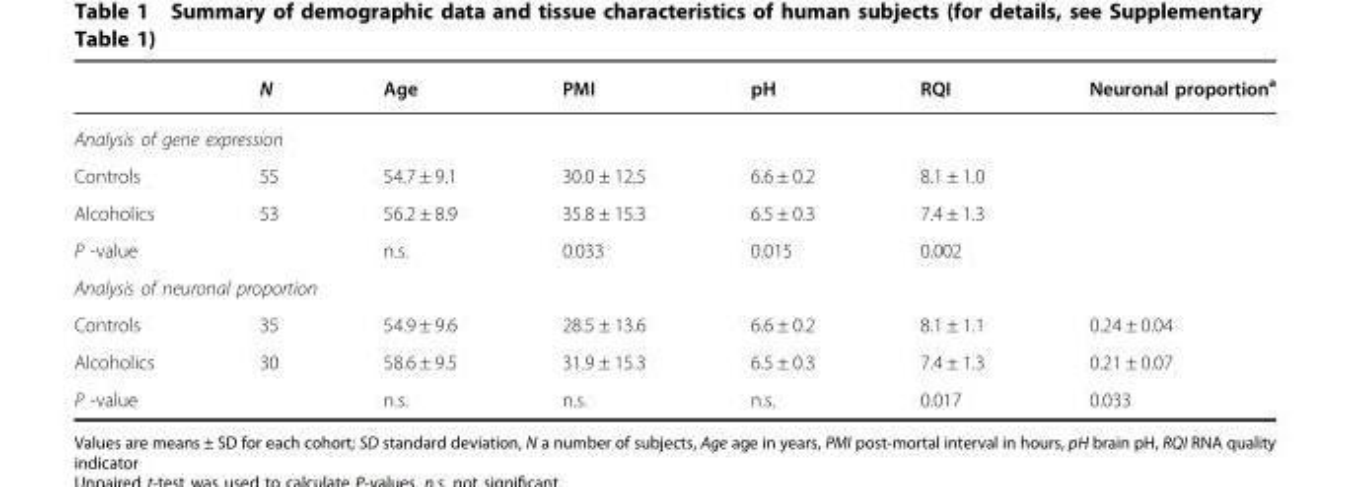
<table><thead><tr><td></td><td>N</td><td>Age</td><td>PMI</td><td>pH</td><td>RQI</td><td>Neuronal proportion<sup>a</sup></td></tr></thead><tbody><tr><td colspan="7">Analysis of gene expression</td></tr><tr><td>Controls</td><td>55</td><td>54.7 ± 9.1</td><td>30.0 ± 12.5</td><td>6.6 ± 0.2</td><td>8.1 ± 1.0</td><td></td></tr><tr><td>Alcoholics</td><td>53</td><td>56.2 ± 8.9</td><td>35.8 ± 15.3</td><td>6.5 ± 0.3</td><td>7.4 ± 1.3</td><td></td></tr><tr><td>P -value</td><td></td><td>n.s.</td><td>0.033</td><td>0.015</td><td>0.002</td><td></td></tr><tr><td colspan="7">Analysis of neuronal proportion</td></tr><tr><td>Controls</td><td>35</td><td>54.9 ± 9.6</td><td>28.5 ± 13.6</td><td>6.6 ± 0.2</td><td>8.1 ± 1.1</td><td>0.24 ± 0.04</td></tr><tr><td>Alcoholics</td><td>30</td><td>58.6 ± 9.5</td><td>31.9 ± 15.3</td><td>6.5 ± 0.3</td><td>7.4 ± 1.3</td><td>0.21 ± 0.07</td></tr><tr><td>P -value</td><td></td><td>n.s.</td><td>n.s.</td><td>n.s.</td><td>0.017</td><td>0.033</td></tr></tbody></table>